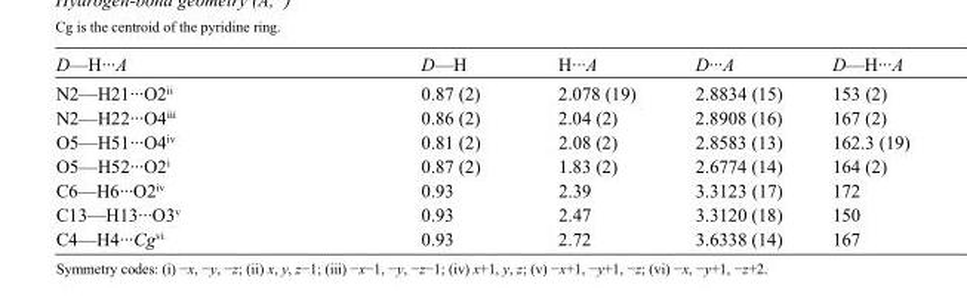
<table><tbody><tr><td>D—H···A</td><td>D—H</td><td>H···A</td><td>D···A</td><td>D—H···A</td></tr><tr><td>N2—H21···O2<sup>ii</sup></td><td>0.87 (2)</td><td>2.078 (19)</td><td>2.8834 (15)</td><td>153 (2)</td></tr><tr><td>N2—H22···O4<sup>iii</sup></td><td>0.86 (2)</td><td>2.04 (2)</td><td>2.8908 (16)</td><td>167 (2)</td></tr><tr><td>O5—H51···O4<sup>iv</sup></td><td>0.81 (2)</td><td>2.08 (2)</td><td>2.8583 (13)</td><td>162.3 (19)</td></tr><tr><td>O5—H52···O2<sup>i</sup></td><td>0.87 (2)</td><td>1.83 (2)</td><td>2.6774 (14)</td><td>164 (2)</td></tr><tr><td>C6—H6···O2<sup>iv</sup></td><td>0.93</td><td>2.39</td><td>3.3123 (17)</td><td>172</td></tr><tr><td>C13—H13···O3<sup>v</sup></td><td>0.93</td><td>2.47</td><td>3.3120 (18)</td><td>150</td></tr><tr><td>C4—H4···Cg<sup>vi</sup></td><td>0.93</td><td>2.72</td><td>3.6338 (14)</td><td>167</td></tr></tbody></table>